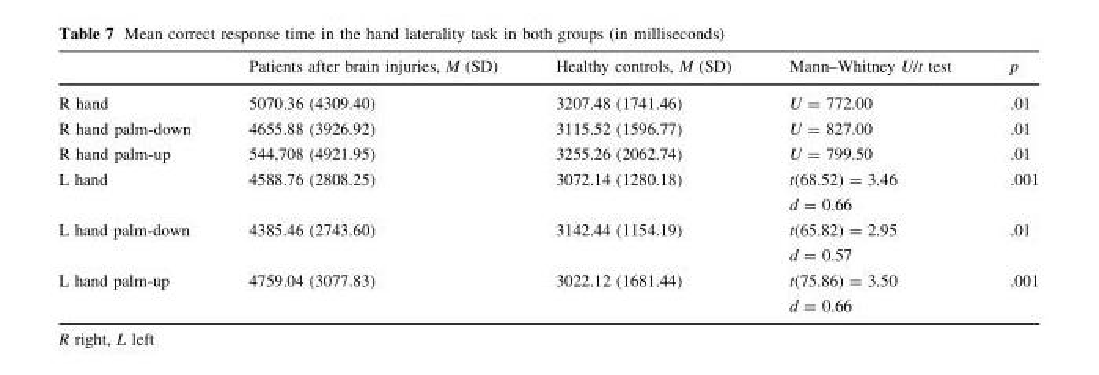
<table><thead><tr><td></td><td>Patients after brain injuries, M (SD)</td><td>Healthy controls, M (SD)</td><td>Mann–Whitney U/t test</td><td>p</td></tr></thead><tbody><tr><td>R hand</td><td>5070.36 (4309.40)</td><td>3207.48 (1741.46)</td><td>U = 772.00</td><td>.01</td></tr><tr><td>R hand palm-down</td><td>4655.88 (3926.92)</td><td>3115.52 (1596.77)</td><td>U = 827.00</td><td>.01</td></tr><tr><td>R hand palm-up</td><td>544,708 (4921.95)</td><td>3255.26 (2062.74)</td><td>U = 799.50</td><td>.01</td></tr><tr><td>L hand</td><td>4588.76 (2808.25)</td><td>3072.14 (1280.18)</td><td>t(68.52) = 3.46 d = 0.66</td><td>.001</td></tr><tr><td>L hand palm-down</td><td>4385.46 (2743.60)</td><td>3142.44 (1154.19)</td><td>t(65.82) = 2.95 d = 0.57</td><td>.01</td></tr><tr><td>L hand palm-up</td><td>4759.04 (3077.83)</td><td>3022.12 (1681.44)</td><td>t(75.86) = 3.50 d = 0.66</td><td>.001</td></tr></tbody></table>